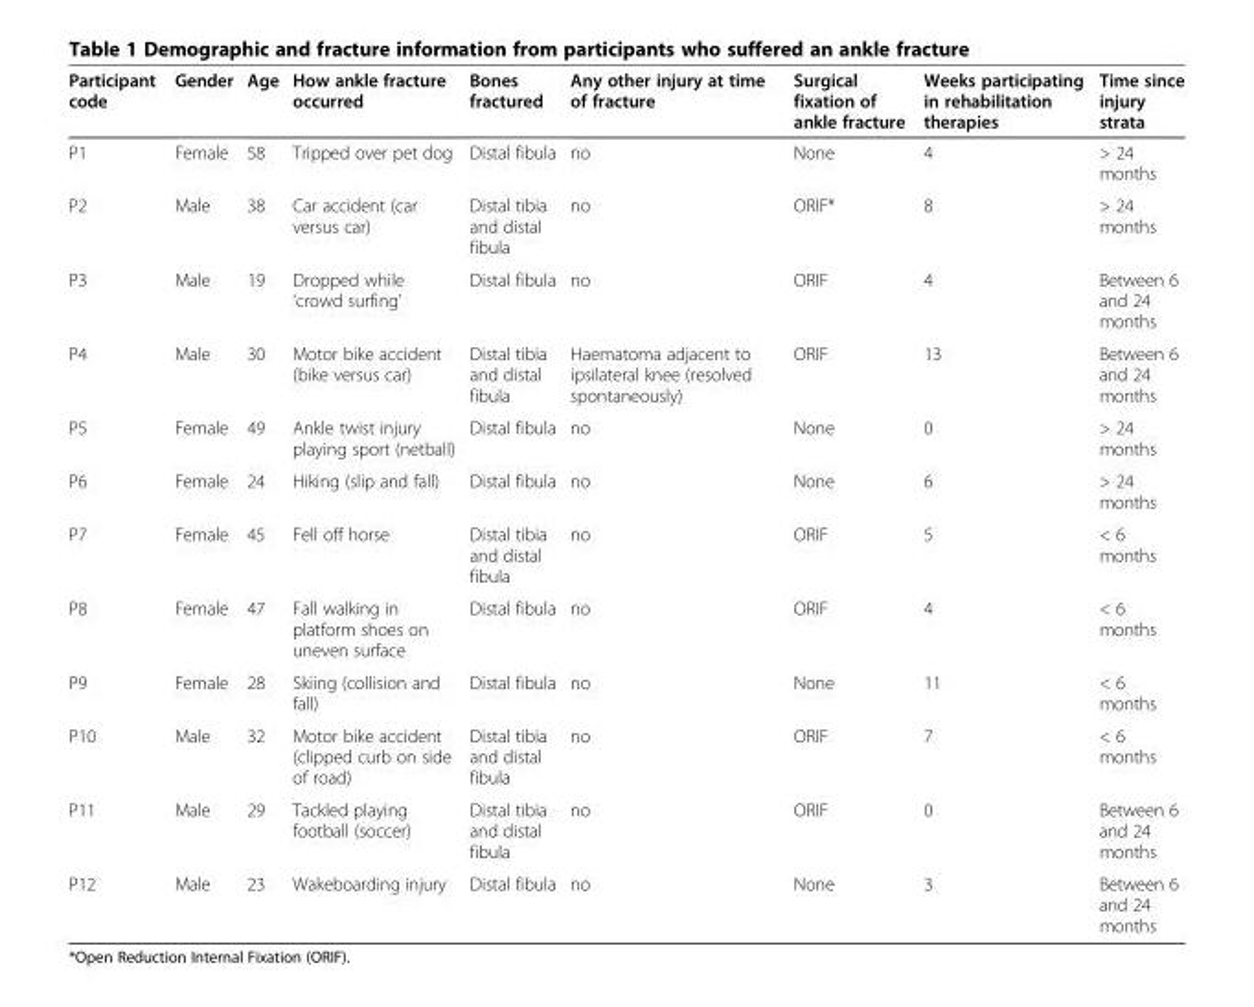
<table><thead><tr><td>Participant code</td><td>Gender</td><td>Age</td><td>How ankle fracture occurred</td><td>Bones fractured</td><td>Any other injury at time of fracture</td><td>Surgical fixation of ankle fracture</td><td>Weeks participating in rehabilitation therapies</td><td>Time since injury strata</td></tr></thead><tbody><tr><td>P1</td><td>Female</td><td>58</td><td>Tripped over pet dog</td><td>Distal fibula</td><td>no</td><td>None</td><td>4</td><td>&gt; 24 months</td></tr><tr><td>P2</td><td>Male</td><td>38</td><td>Car accident (car versus car)</td><td>Distal tibia and distal fibula</td><td>no</td><td>ORIF*</td><td>8</td><td>&gt; 24 months</td></tr><tr><td>P3</td><td>Male</td><td>19</td><td>Dropped while ‘crowd surfing’</td><td>Distal fibula</td><td>no</td><td>ORIF</td><td>4</td><td>Between 6 and 24 months</td></tr><tr><td>P4</td><td>Male</td><td>30</td><td>Motor bike accident (bike versus car)</td><td>Distal tibia and distal fibula</td><td>Haematoma adjacent to ipsilateral knee (resolved spontaneously)</td><td>ORIF</td><td>13</td><td>Between 6 and 24 months</td></tr><tr><td>P5</td><td>Female</td><td>49</td><td>Ankle twist injury playing sport (netball)</td><td>Distal fibula</td><td>no</td><td>None</td><td>0</td><td>&gt; 24 months</td></tr><tr><td>P6</td><td>Female</td><td>24</td><td>Hiking (slip and fall)</td><td>Distal fibula</td><td>no</td><td>None</td><td>6</td><td>&gt; 24 months</td></tr><tr><td>P7</td><td>Female</td><td>45</td><td>Fell off horse</td><td>Distal tibia and distal fibula</td><td>no</td><td>ORIF</td><td>5</td><td>&lt; 6 months</td></tr><tr><td>P8</td><td>Female</td><td>47</td><td>Fall walking in platform shoes on uneven surface</td><td>Distal fibula</td><td>no</td><td>ORIF</td><td>4</td><td>&lt; 6 months</td></tr><tr><td>P9</td><td>Female</td><td>28</td><td>Skiing (collision and fall)</td><td>Distal fibula</td><td>no</td><td>None</td><td>11</td><td>&lt; 6 months</td></tr><tr><td>P10</td><td>Male</td><td>32</td><td>Motor bike accident (clipped curb on side of road)</td><td>Distal tibia and distal fibula</td><td>no</td><td>ORIF</td><td>7</td><td>&lt; 6 months</td></tr><tr><td>P11</td><td>Male</td><td>29</td><td>Tackled playing football (soccer)</td><td>Distal tibia and distal fibula</td><td>no</td><td>ORIF</td><td>0</td><td>Between 6 and 24 months</td></tr><tr><td>P12</td><td>Male</td><td>23</td><td>Wakeboarding injury</td><td>Distal fibula</td><td>no</td><td>None</td><td>3</td><td>Between 6 and 24 months</td></tr></tbody></table>